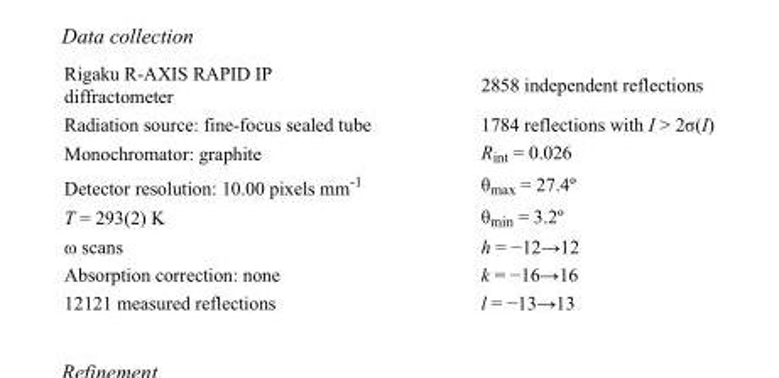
<table><tbody><tr><td>Rigaku R-AXIS RAPID IP diffractometer</td><td>2858 independent reflections</td></tr><tr><td>Radiation source: fine-focus sealed tube</td><td>1784 reflections with I &gt; 2σ(I)</td></tr><tr><td>Monochromator: graphite</td><td>R<sub>int</sub> = 0.026</td></tr><tr><td>Detector resolution: 10.00 pixels mm<sup>-1</sup></td><td>θ<sub>max</sub> = 27.4º</td></tr><tr><td>T = 293(2) K</td><td>θ<sub>min</sub> = 3.2º</td></tr><tr><td>ω scans</td><td>h = −12→12</td></tr><tr><td>Absorption correction: none</td><td>k = −16→16</td></tr><tr><td>12121 measured reflections</td><td>l = −13→13</td></tr></tbody></table>